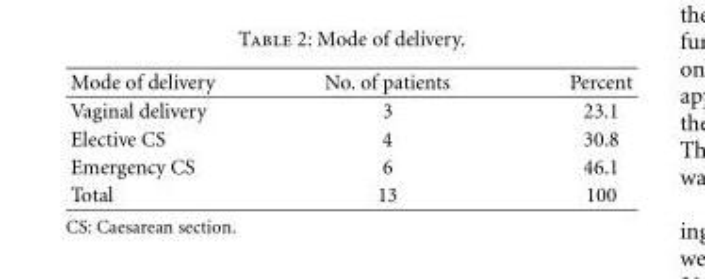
<table><thead><tr><td>Mode of delivery</td><td>No. of patients</td><td>Percent</td></tr></thead><tbody><tr><td>Vaginal delivery</td><td>3</td><td>23.1</td></tr><tr><td>Elective CS</td><td>4</td><td>30.8</td></tr><tr><td>Emergency CS</td><td>6</td><td>46.1</td></tr><tr><td>Total</td><td>13</td><td>100</td></tr></tbody></table>